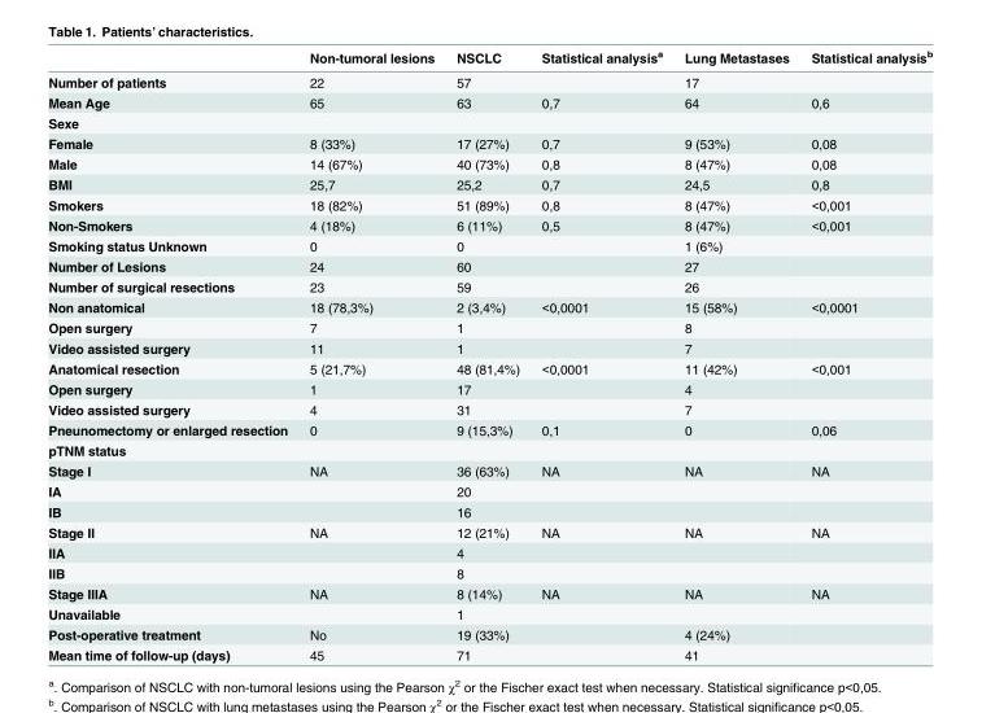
<table><thead><tr><td></td><td>Non-tumoral lesions</td><td>NSCLC</td><td>Statistical analysis<sup>a</sup></td><td>Lung Metastases</td><td>Statistical analysis<sup>b</sup></td></tr></thead><tbody><tr><td>Number of patients</td><td>22</td><td>57</td><td></td><td>17</td><td></td></tr><tr><td>Mean Age</td><td>65</td><td>63</td><td>0,7</td><td>64</td><td>0,6</td></tr><tr><td colspan="6">Sexe</td></tr><tr><td>Female</td><td>8 (33%)</td><td>17 (27%)</td><td>0,7</td><td>9 (53%)</td><td>0,08</td></tr><tr><td>Male</td><td>14 (67%)</td><td>40 (73%)</td><td>0,8</td><td>8 (47%)</td><td>0,08</td></tr><tr><td>BMI</td><td>25,7</td><td>25,2</td><td>0,7</td><td>24,5</td><td>0,8</td></tr><tr><td>Smokers</td><td>18 (82%)</td><td>51 (89%)</td><td>0,8</td><td>8 (47%)</td><td>&lt;0,001</td></tr><tr><td>Non-Smokers</td><td>4 (18%)</td><td>6 (11%)</td><td>0,5</td><td>8 (47%)</td><td>&lt;0,001</td></tr><tr><td>Smoking status Unknown</td><td>0</td><td>0</td><td></td><td>1 (6%)</td><td></td></tr><tr><td>Number of Lesions</td><td>24</td><td>60</td><td></td><td>27</td><td></td></tr><tr><td>Number of surgical resections</td><td>23</td><td>59</td><td></td><td>26</td><td></td></tr><tr><td>Non anatomical</td><td>18 (78,3%)</td><td>2 (3,4%)</td><td>&lt;0,0001</td><td>15 (58%)</td><td>&lt;0,0001</td></tr><tr><td>Open surgery</td><td>7</td><td>1</td><td></td><td>8</td><td></td></tr><tr><td>Video assisted surgery</td><td>11</td><td>1</td><td></td><td>7</td><td></td></tr><tr><td>Anatomical resection</td><td>5 (21,7%)</td><td>48 (81,4%)</td><td>&lt;0,0001</td><td>11 (42%)</td><td>&lt;0,001</td></tr><tr><td>Open surgery</td><td>1</td><td>17</td><td></td><td>4</td><td></td></tr><tr><td>Video assisted surgery</td><td>4</td><td>31</td><td></td><td>7</td><td></td></tr><tr><td>Pneunomectomy or enlarged resection</td><td>0</td><td>9 (15,3%)</td><td>0,1</td><td>0</td><td>0,06</td></tr><tr><td colspan="6">pTNM status</td></tr><tr><td>Stage I</td><td>NA</td><td>36 (63%)</td><td>NA</td><td>NA</td><td>NA</td></tr><tr><td>IA</td><td></td><td>20</td><td></td><td></td><td></td></tr><tr><td>IB</td><td></td><td>16</td><td></td><td></td><td></td></tr><tr><td>Stage II</td><td>NA</td><td>12 (21%)</td><td>NA</td><td>NA</td><td>NA</td></tr><tr><td>IIA</td><td></td><td>4</td><td></td><td></td><td></td></tr><tr><td>IIB</td><td></td><td>8</td><td></td><td></td><td></td></tr><tr><td>Stage IIIA</td><td>NA</td><td>8 (14%)</td><td>NA</td><td>NA</td><td>NA</td></tr><tr><td>Unavailable</td><td></td><td>1</td><td></td><td></td><td></td></tr><tr><td>Post-operative treatment</td><td>No</td><td>19 (33%)</td><td></td><td>4 (24%)</td><td></td></tr><tr><td>Mean time of follow-up (days)</td><td>45</td><td>71</td><td></td><td>41</td><td></td></tr></tbody></table>